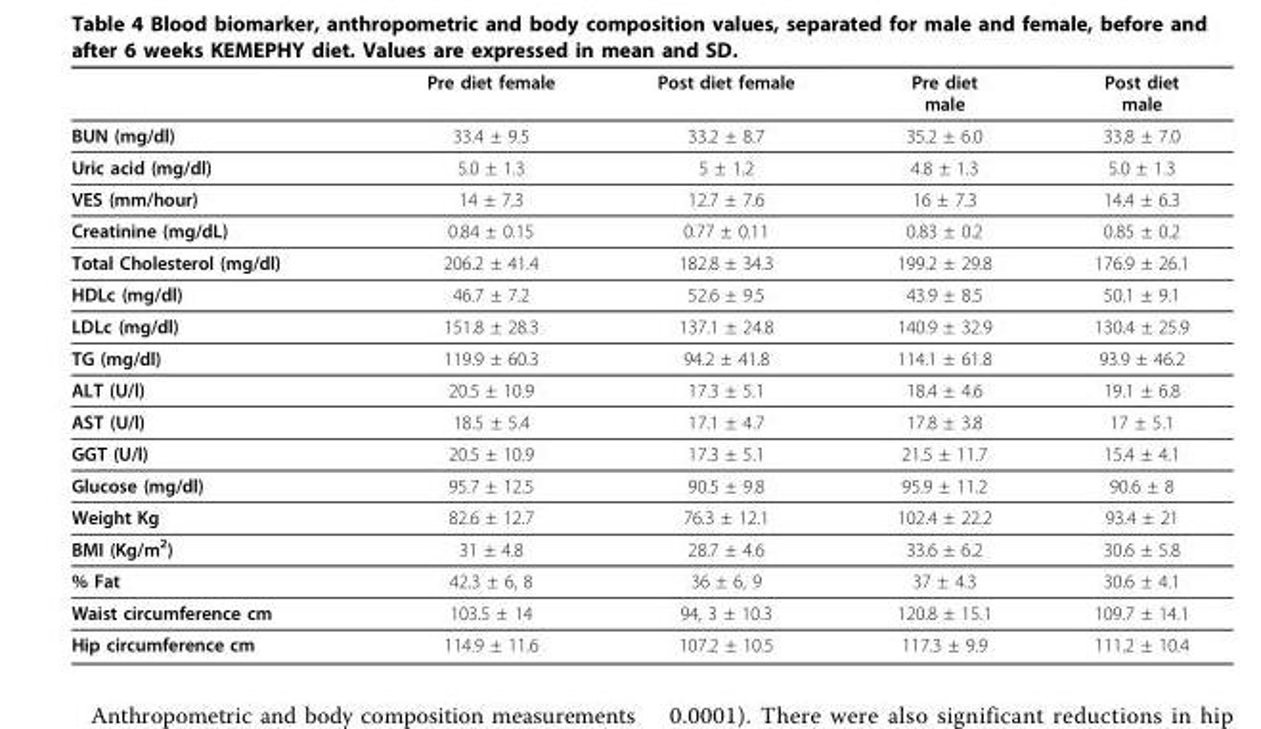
<table><thead><tr><td></td><td>Pre diet female</td><td>Post diet female</td><td>Pre diet male</td><td>Post diet male</td></tr></thead><tbody><tr><td>BUN (mg/dl)</td><td>33.4 ± 9.5</td><td>33.2 ± 8.7</td><td>35.2 ± 6.0</td><td>33.8 ± 7.0</td></tr><tr><td>Uric acid (mg/dl)</td><td>5.0 ± 1.3</td><td>5 ± 1.2</td><td>4.8 ± 1.3</td><td>5.0 ± 1.3</td></tr><tr><td>VES (mm/hour)</td><td>14 ± 7.3</td><td>12.7 ± 7.6</td><td>16 ± 7.3</td><td>14.4 ± 6.3</td></tr><tr><td>Creatinine (mg/dL)</td><td>0.84 ± 0.15</td><td>0.77 ± 0.11</td><td>0.83 ± 0.2</td><td>0.85 ± 0.2</td></tr><tr><td>Total Cholesterol (mg/dl)</td><td>206.2 ± 41.4</td><td>182.8 ± 34.3</td><td>199.2 ± 29.8</td><td>176.9 ± 26.1</td></tr><tr><td>HDLc (mg/dl)</td><td>46.7 ± 7.2</td><td>52.6 ± 9.5</td><td>43.9 ± 8.5</td><td>50.1 ± 9.1</td></tr><tr><td>LDLc (mg/dl)</td><td>151.8 ± 28.3</td><td>137.1 ± 24.8</td><td>140.9 ± 32.9</td><td>130.4 ± 25.9</td></tr><tr><td>TG (mg/dl)</td><td>119.9 ± 60.3</td><td>94.2 ± 41.8</td><td>114.1 ± 61.8</td><td>93.9 ± 46.2</td></tr><tr><td>ALT (U/l)</td><td>20.5 ± 10.9</td><td>17.3 ± 5.1</td><td>18.4 ± 4.6</td><td>19.1 ± 6.8</td></tr><tr><td>AST (U/l)</td><td>18.5 ± 5.4</td><td>17.1 ± 4.7</td><td>17.8 ± 3.8</td><td>17 ± 5.1</td></tr><tr><td>GGT (U/l)</td><td>20.5 ± 10.9</td><td>17.3 ± 5.1</td><td>21.5 ± 11.7</td><td>15.4 ± 4.1</td></tr><tr><td>Glucose (mg/dl)</td><td>95.7 ± 12.5</td><td>90.5 ± 9.8</td><td>95.9 ± 11.2</td><td>90.6 ± 8</td></tr><tr><td>Weight Kg</td><td>82.6 ± 12.7</td><td>76.3 ± 12.1</td><td>102.4 ± 22.2</td><td>93.4 ± 21</td></tr><tr><td>BMI (Kg/m<sup>2</sup>)</td><td>31 ± 4.8</td><td>28.7 ± 4.6</td><td>33.6 ± 6.2</td><td>30.6 ± 5.8</td></tr><tr><td>% Fat</td><td>42.3 ± 6, 8</td><td>36 ± 6, 9</td><td>37 ± 4.3</td><td>30.6 ± 4.1</td></tr><tr><td>Waist circumference cm</td><td>103.5 ± 14</td><td>94, 3 ± 10.3</td><td>120.8 ± 15.1</td><td>109.7 ± 14.1</td></tr><tr><td>Hip circumference cm</td><td>114.9 ± 11.6</td><td>107.2 ± 10.5</td><td>117.3 ± 9.9</td><td>111.2 ± 10.4</td></tr></tbody></table>